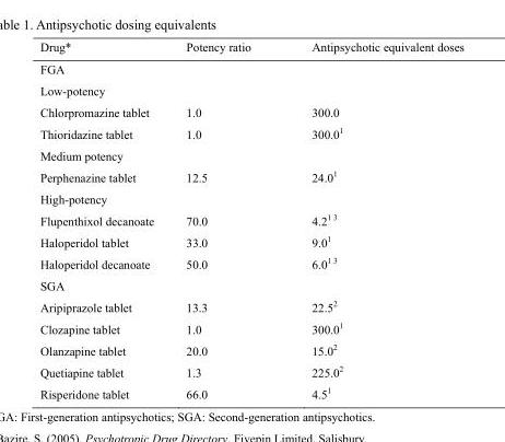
<table><thead><tr><td>Drug*</td><td>Potency ratio</td><td>Antipsychotic equivalent doses</td></tr></thead><tbody><tr><td colspan="3">FGA</td></tr><tr><td colspan="3">Low-potency</td></tr><tr><td>Chlorpromazine tablet</td><td>1.0</td><td>300.0</td></tr><tr><td>Thioridazine tablet</td><td>1.0</td><td>300.0<sup>1</sup></td></tr><tr><td colspan="3">Medium potency</td></tr><tr><td>Perphenazine tablet</td><td>12.5</td><td>24.0<sup>1</sup></td></tr><tr><td colspan="3">High-potency</td></tr><tr><td>Flupenthixol decanoate</td><td>70.0</td><td>4.21 3</td></tr><tr><td>Haloperidol tablet</td><td>33.0</td><td>9.0<sup>1</sup></td></tr><tr><td>Haloperidol decanoate</td><td>50.0</td><td>6.01 3</td></tr><tr><td colspan="3">SGA</td></tr><tr><td>Aripiprazole tablet</td><td>13.3</td><td>22.5<sup>2</sup></td></tr><tr><td>Clozapine tablet</td><td>1.0</td><td>300.0<sup>1</sup></td></tr><tr><td>Olanzapine tablet</td><td>20.0</td><td>15.0<sup>2</sup></td></tr><tr><td>Quetiapine tablet</td><td>1.3</td><td>225.0<sup>2</sup></td></tr><tr><td>Risperidone tablet</td><td>66.0</td><td>4.5<sup>1</sup></td></tr></tbody></table>